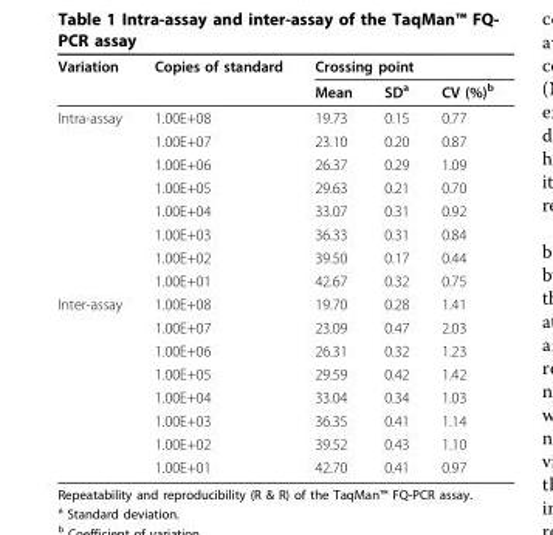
<table><thead><tr><td rowspan="2">Variation</td><td rowspan="2">Copies of standard</td><td colspan="3">Crossing point</td></tr><tr><td>Mean</td><td>SD<sup>a</sup></td><td>CV (%)<sup>b</sup></td></tr></thead><tbody><tr><td rowspan="8">Intra-assay</td><td>1.00E+08</td><td>19.73</td><td>0.15</td><td>0.77</td></tr><tr><td>1.00E+07</td><td>23.10</td><td>0.20</td><td>0.87</td></tr><tr><td>1.00E+06</td><td>26.37</td><td>0.29</td><td>1.09</td></tr><tr><td>1.00E+05</td><td>29.63</td><td>0.21</td><td>0.70</td></tr><tr><td>1.00E+04</td><td>33.07</td><td>0.31</td><td>0.92</td></tr><tr><td>1.00E+03</td><td>36.33</td><td>0.31</td><td>0.84</td></tr><tr><td>1.00E+02</td><td>39.50</td><td>0.17</td><td>0.44</td></tr><tr><td>1.00E+01</td><td>42.67</td><td>0.32</td><td>0.75</td></tr><tr><td rowspan="8">Inter-assay</td><td>1.00E+08</td><td>19.70</td><td>0.28</td><td>1.41</td></tr><tr><td>1.00E+07</td><td>23.09</td><td>0.47</td><td>2.03</td></tr><tr><td>1.00E+06</td><td>26.31</td><td>0.32</td><td>1.23</td></tr><tr><td>1.00E+05</td><td>29.59</td><td>0.42</td><td>1.42</td></tr><tr><td>1.00E+04</td><td>33.04</td><td>0.34</td><td>1.03</td></tr><tr><td>1.00E+03</td><td>36.35</td><td>0.41</td><td>1.14</td></tr><tr><td>1.00E+02</td><td>39.52</td><td>0.43</td><td>1.10</td></tr><tr><td>1.00E+01</td><td>42.70</td><td>0.41</td><td>0.97</td></tr></tbody></table>